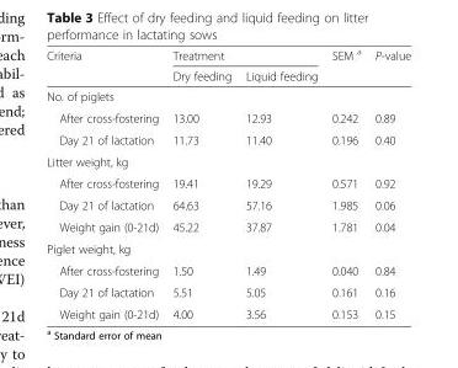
<table><thead><tr><td rowspan="2">Criteria</td><td colspan="2">Treatment</td><td rowspan="2">SEM <sup>a</sup></td><td rowspan="2">P-value</td></tr><tr><td>Dry feeding</td><td>Liquid feeding</td></tr></thead><tbody><tr><td colspan="5">No. of piglets</td></tr><tr><td>After cross-fostering</td><td>13.00</td><td>12.93</td><td>0.242</td><td>0.89</td></tr><tr><td>Day 21 of lactation</td><td>11.73</td><td>11.40</td><td>0.196</td><td>0.40</td></tr><tr><td colspan="5">Litter weight, kg</td></tr><tr><td>After cross-fostering</td><td>19.41</td><td>19.29</td><td>0.571</td><td>0.92</td></tr><tr><td>Day 21 of lactation</td><td>64.63</td><td>57.16</td><td>1.985</td><td>0.06</td></tr><tr><td>Weight gain (0-21d)</td><td>45.22</td><td>37.87</td><td>1.781</td><td>0.04</td></tr><tr><td colspan="5">Piglet weight, kg</td></tr><tr><td>After cross-fostering</td><td>1.50</td><td>1.49</td><td>0.040</td><td>0.84</td></tr><tr><td>Day 21 of lactation</td><td>5.51</td><td>5.05</td><td>0.161</td><td>0.16</td></tr><tr><td>Weight gain (0-21d)</td><td>4.00</td><td>3.56</td><td>0.153</td><td>0.15</td></tr></tbody></table>